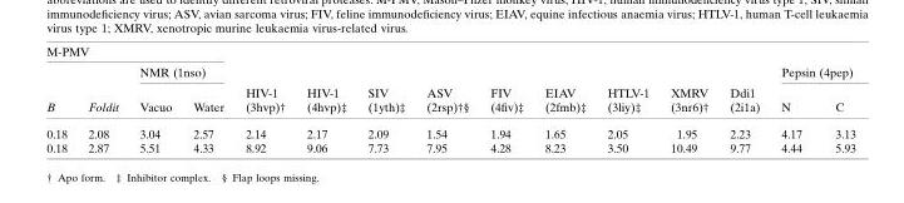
<table><thead><tr><td colspan="4">M-PMV</td><td rowspan="3">HIV-1 (3hvp)†</td><td rowspan="3">HIV-1 (4hvp)‡</td><td rowspan="3">SIV (1yth)‡</td><td rowspan="3">ASV (2rsp)†§</td><td rowspan="3">FIV (4fiv)‡</td><td rowspan="3">EIAV (2fmb)‡</td><td rowspan="3">HTLV-1 (3liy)‡</td><td rowspan="3">XMRV (3nr6)†</td><td rowspan="3">Ddi1 (2i1a)</td><td></td><td></td></tr><tr><td rowspan="2">B</td><td rowspan="2">Foldit</td><td colspan="2">NMR (1nso)</td><td colspan="2">Pepsin (4pep)</td></tr><tr><td>Vacuo</td><td>Water</td><td>N</td><td>C</td></tr></thead><tbody><tr><td>0.18</td><td>2.08</td><td>3.04</td><td>2.57</td><td>2.14</td><td>2.17</td><td>2.09</td><td>1.54</td><td>1.94</td><td>1.65</td><td>2.05</td><td>1.95</td><td>2.23</td><td>4.17</td><td>3.13</td></tr><tr><td>0.18</td><td>2.87</td><td>5.51</td><td>4.33</td><td>8.92</td><td>9.06</td><td>7.73</td><td>7.95</td><td>4.28</td><td>8.23</td><td>3.50</td><td>10.49</td><td>9.77</td><td>4.44</td><td>5.93</td></tr></tbody></table>